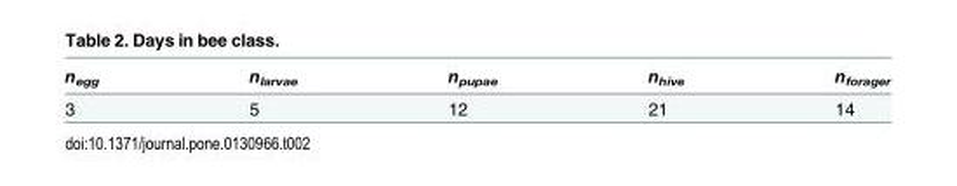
<table><thead><tr><td>n<sub>egg</sub></td><td>n<sub>larvae</sub></td><td>n<sub>pupae</sub></td><td>n<sub>hive</sub></td><td>n<sub>forager</sub></td></tr></thead><tbody><tr><td>3</td><td>5</td><td>12</td><td>21</td><td>14</td></tr></tbody></table>